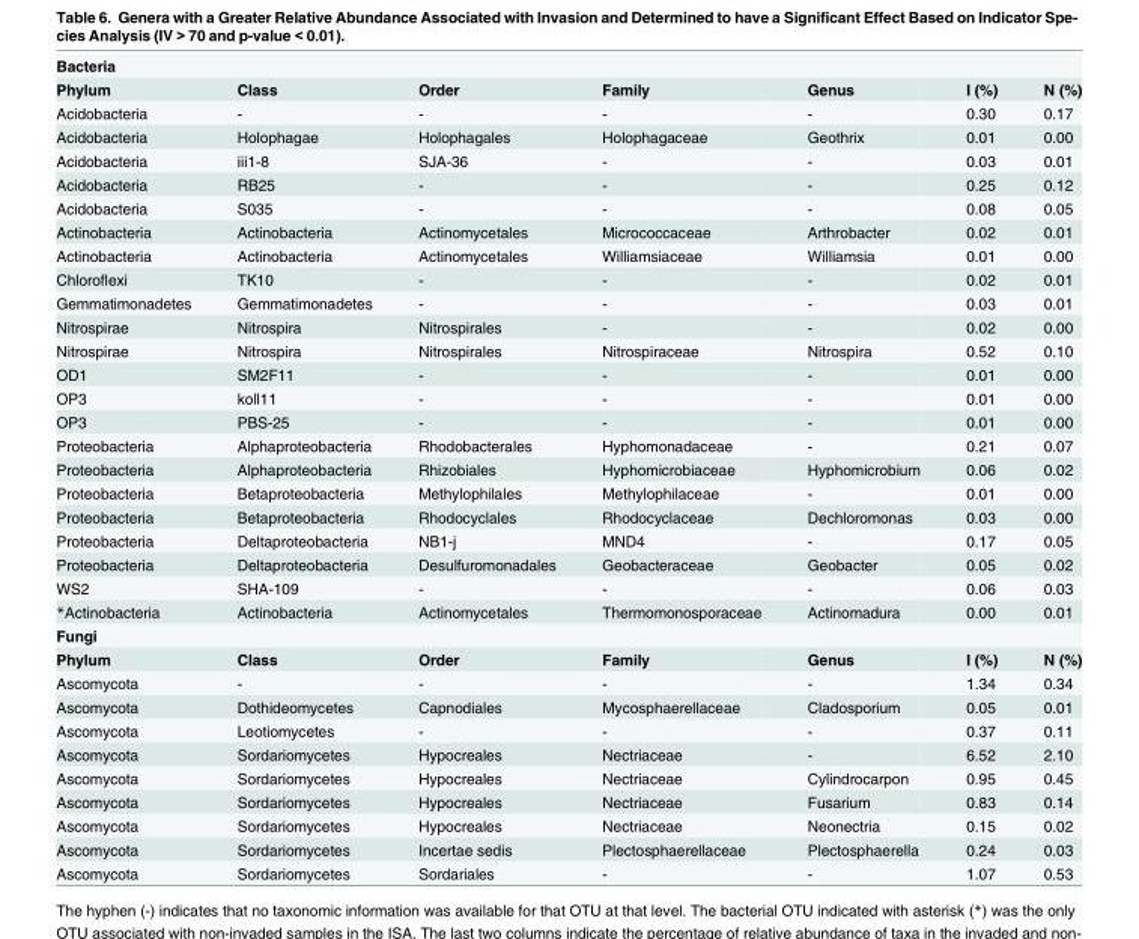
<table><tbody><tr><td colspan="7">Bacteria</td></tr><tr><td>Phylum</td><td>Class</td><td>Order</td><td>Family</td><td>Genus</td><td>I (%)</td><td>N (%)</td></tr><tr><td>Acidobacteria</td><td>-</td><td>-</td><td>-</td><td>-</td><td>0.30</td><td>0.17</td></tr><tr><td>Acidobacteria</td><td>Holophagae</td><td>Holophagales</td><td>Holophagaceae</td><td>Geothrix</td><td>0.01</td><td>0.00</td></tr><tr><td>Acidobacteria</td><td>iii1-8</td><td>SJA-36</td><td>-</td><td>-</td><td>0.03</td><td>0.01</td></tr><tr><td>Acidobacteria</td><td>RB25</td><td>-</td><td>-</td><td>-</td><td>0.25</td><td>0.12</td></tr><tr><td>Acidobacteria</td><td>S035</td><td>-</td><td>-</td><td>-</td><td>0.08</td><td>0.05</td></tr><tr><td>Actinobacteria</td><td>Actinobacteria</td><td>Actinomycetales</td><td>Micrococcaceae</td><td>Arthrobacter</td><td>0.02</td><td>0.01</td></tr><tr><td>Actinobacteria</td><td>Actinobacteria</td><td>Actinomycetales</td><td>Williamsiaceae</td><td>Williamsia</td><td>0.01</td><td>0.00</td></tr><tr><td>Chloroflexi</td><td>TK10</td><td>-</td><td>-</td><td>-</td><td>0.02</td><td>0.01</td></tr><tr><td>Gemmatimonadetes</td><td>Gemmatimonadetes</td><td>-</td><td>-</td><td>-</td><td>0.03</td><td>0.01</td></tr><tr><td>Nitrospirae</td><td>Nitrospira</td><td>Nitrospirales</td><td>-</td><td>-</td><td>0.02</td><td>0.00</td></tr><tr><td>Nitrospirae</td><td>Nitrospira</td><td>Nitrospirales</td><td>Nitrospiraceae</td><td>Nitrospira</td><td>0.52</td><td>0.10</td></tr><tr><td>OD1</td><td>SM2F11</td><td>-</td><td>-</td><td>-</td><td>0.01</td><td>0.00</td></tr><tr><td>OP3</td><td>koll11</td><td>-</td><td>-</td><td>-</td><td>0.01</td><td>0.00</td></tr><tr><td>OP3</td><td>PBS-25</td><td>-</td><td>-</td><td>-</td><td>0.01</td><td>0.00</td></tr><tr><td>Proteobacteria</td><td>Alphaproteobacteria</td><td>Rhodobacterales</td><td>Hyphomonadaceae</td><td>-</td><td>0.21</td><td>0.07</td></tr><tr><td>Proteobacteria</td><td>Alphaproteobacteria</td><td>Rhizobiales</td><td>Hyphomicrobiaceae</td><td>Hyphomicrobium</td><td>0.06</td><td>0.02</td></tr><tr><td>Proteobacteria</td><td>Betaproteobacteria</td><td>Methylophilales</td><td>Methylophilaceae</td><td>-</td><td>0.01</td><td>0.00</td></tr><tr><td>Proteobacteria</td><td>Betaproteobacteria</td><td>Rhodocyclales</td><td>Rhodocyclaceae</td><td>Dechloromonas</td><td>0.03</td><td>0.00</td></tr><tr><td>Proteobacteria</td><td>Deltaproteobacteria</td><td>NB1-j</td><td>MND4</td><td>-</td><td>0.17</td><td>0.05</td></tr><tr><td>Proteobacteria</td><td>Deltaproteobacteria</td><td>Desulfuromonadales</td><td>Geobacteraceae</td><td>Geobacter</td><td>0.05</td><td>0.02</td></tr><tr><td>WS2</td><td>SHA-109</td><td>-</td><td>-</td><td>-</td><td>0.06</td><td>0.03</td></tr><tr><td>*Actinobacteria</td><td>Actinobacteria</td><td>Actinomycetales</td><td>Thermomonosporaceae</td><td>Actinomadura</td><td>0.00</td><td>0.01</td></tr><tr><td colspan="7">Fungi</td></tr><tr><td>Phylum</td><td>Class</td><td>Order</td><td>Family</td><td>Genus</td><td>I (%)</td><td>N (%)</td></tr><tr><td>Ascomycota</td><td>-</td><td>-</td><td>-</td><td>-</td><td>1.34</td><td>0.34</td></tr><tr><td>Ascomycota</td><td>Dothideomycetes</td><td>Capnodiales</td><td>Mycosphaerellaceae</td><td>Cladosporium</td><td>0.05</td><td>0.01</td></tr><tr><td>Ascomycota</td><td>Leotiomycetes</td><td>-</td><td>-</td><td>-</td><td>0.37</td><td>0.11</td></tr><tr><td>Ascomycota</td><td>Sordariomycetes</td><td>Hypocreales</td><td>Nectriaceae</td><td>-</td><td>6.52</td><td>2.10</td></tr><tr><td>Ascomycota</td><td>Sordariomycetes</td><td>Hypocreales</td><td>Nectriaceae</td><td>Cylindrocarpon</td><td>0.95</td><td>0.45</td></tr><tr><td>Ascomycota</td><td>Sordariomycetes</td><td>Hypocreales</td><td>Nectriaceae</td><td>Fusarium</td><td>0.83</td><td>0.14</td></tr><tr><td>Ascomycota</td><td>Sordariomycetes</td><td>Hypocreales</td><td>Nectriaceae</td><td>Neonectria</td><td>0.15</td><td>0.02</td></tr><tr><td>Ascomycota</td><td>Sordariomycetes</td><td>Incertae sedis</td><td>Plectosphaerellaceae</td><td>Plectosphaerella</td><td>0.24</td><td>0.03</td></tr><tr><td>Ascomycota</td><td>Sordariomycetes</td><td>Sordariales</td><td>-</td><td>-</td><td>1.07</td><td>0.53</td></tr></tbody></table>